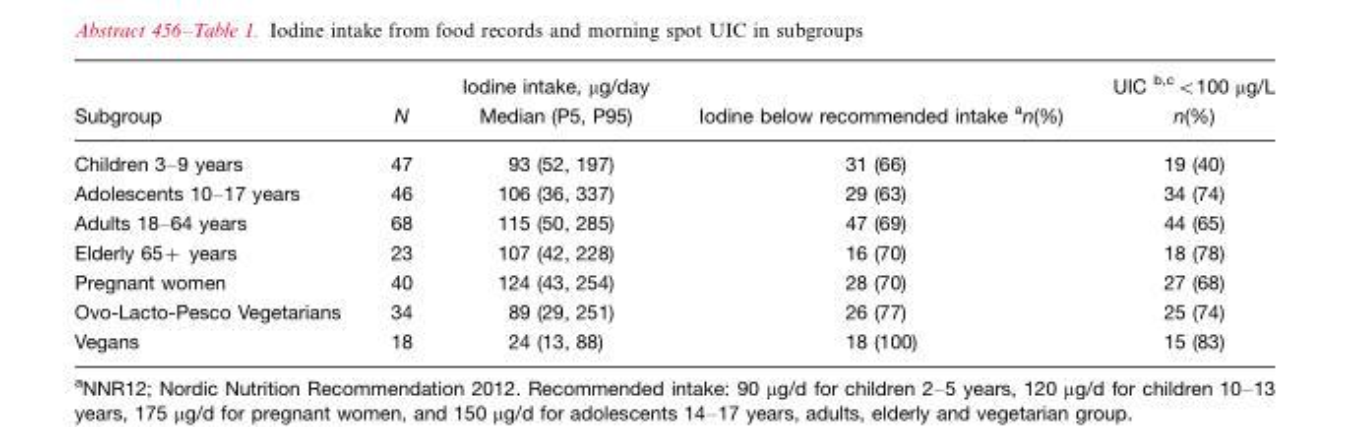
<table><thead><tr><td>Subgroup</td><td>N</td><td>Iodine intake, µg/day Median (P5, P95)</td><td>Iodine below recommended intake an(%)</td><td>UIC b,cB100 mg/L n(%)</td></tr></thead><tbody><tr><td>Children 3–9 years</td><td>47</td><td>93 (52, 197)</td><td>31 (66)</td><td>19 (40)</td></tr><tr><td>Adolescents 10–17 years</td><td>46</td><td>106 (36, 337)</td><td>29 (63)</td><td>34 (74)</td></tr><tr><td>Adults 18–64 years</td><td>68</td><td>115 (50, 285)</td><td>47 (69)</td><td>44 (65)</td></tr><tr><td>Elderly 65+ years</td><td>23</td><td>107 (42, 228)</td><td>16 (70)</td><td>18 (78)</td></tr><tr><td>Pregnant women</td><td>40</td><td>124 (43, 254)</td><td>28 (70)</td><td>27 (68)</td></tr><tr><td>Ovo-Lacto-Pesco Vegetarians</td><td>34</td><td>89 (29, 251)</td><td>26 (77)</td><td>25 (74)</td></tr><tr><td>Vegans</td><td>18</td><td>24 (13, 88)</td><td>18 (100)</td><td>15 (83)</td></tr></tbody></table>